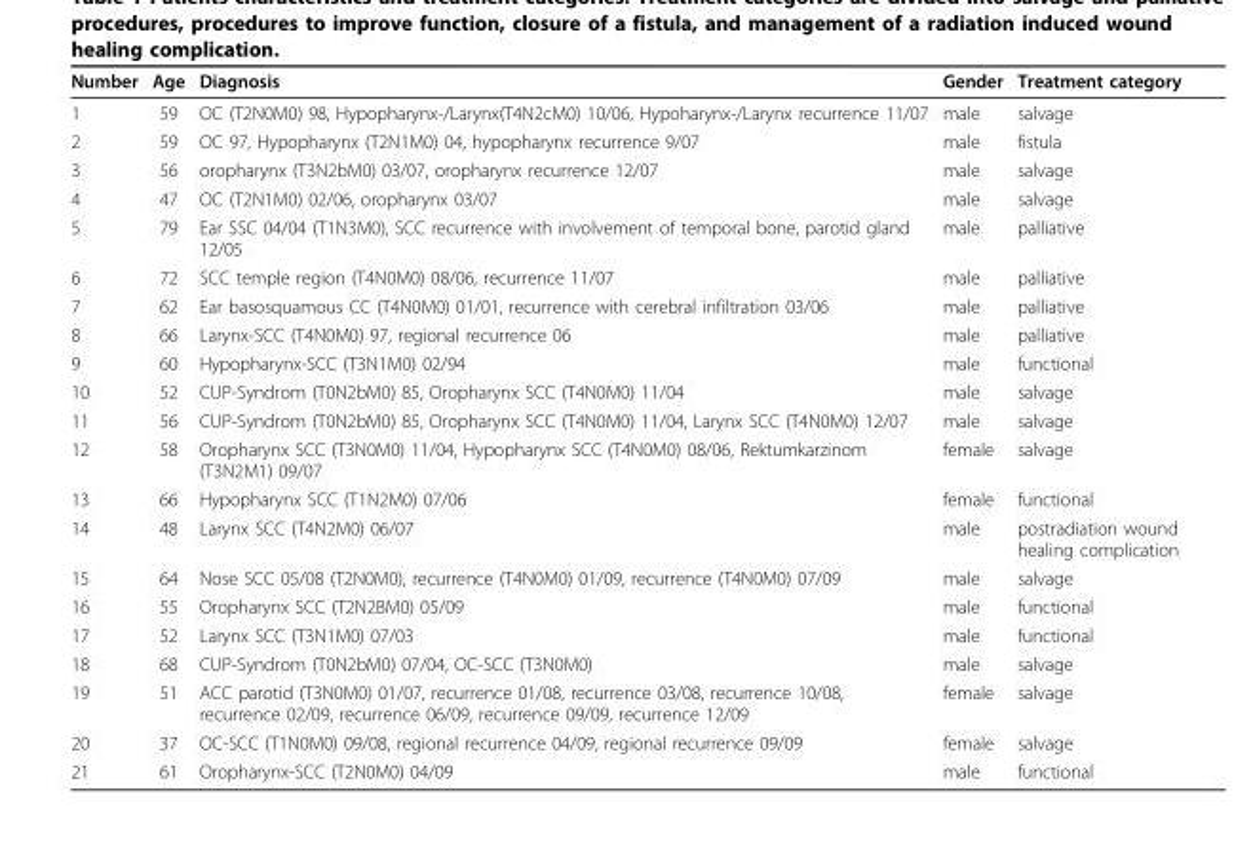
<table><thead><tr><td>Number</td><td>Age</td><td>Diagnosis</td><td>Gender</td><td>Treatment category</td></tr></thead><tbody><tr><td>1</td><td>59</td><td>OC (T2N0M0) 98, Hypopharynx-/Larynx(T4N2cM0) 10/06, Hypoharynx-/Larynx recurrence 11/07</td><td>male</td><td>salvage</td></tr><tr><td>2</td><td>59</td><td>OC 97, Hypopharynx (T2N1M0) 04, hypopharynx recurrence 9/07</td><td>male</td><td>fistula</td></tr><tr><td>3</td><td>56</td><td>oropharynx (T3N2bM0) 03/07, oropharynx recurrence 12/07</td><td>male</td><td>salvage</td></tr><tr><td>4</td><td>47</td><td>OC (T2N1M0) 02/06, oropharynx 03/07</td><td>male</td><td>salvage</td></tr><tr><td>5</td><td>79</td><td>Ear SSC 04/04 (T1N3M0), SCC recurrence with involvement of temporal bone, parotid gland 12/05</td><td>male</td><td>palliative</td></tr><tr><td>6</td><td>72</td><td>SCC temple region (T4N0M0) 08/06, recurrence 11/07</td><td>male</td><td>palliative</td></tr><tr><td>7</td><td>62</td><td>Ear basosquamous CC (T4N0M0) 01/01, recurrence with cerebral infiltration 03/06</td><td>male</td><td>palliative</td></tr><tr><td>8</td><td>66</td><td>Larynx-SCC (T4N0M0) 97, regional recurrence 06</td><td>male</td><td>palliative</td></tr><tr><td>9</td><td>60</td><td>Hypopharynx-SCC (T3N1M0) 02/94</td><td>male</td><td>functional</td></tr><tr><td>10</td><td>52</td><td>CUP-Syndrom (T0N2bM0) 85, Oropharynx SCC (T4N0M0) 11/04</td><td>male</td><td>salvage</td></tr><tr><td>11</td><td>56</td><td>CUP-Syndrom (T0N2bM0) 85, Oropharynx SCC (T4N0M0) 11/04, Larynx SCC (T4N0M0) 12/07</td><td>male</td><td>salvage</td></tr><tr><td>12</td><td>58</td><td>Oropharynx SCC (T3N0M0) 11/04, Hypopharynx SCC (T4N0M0) 08/06, Rektumkarzinom (T3N2M1) 09/07</td><td>female</td><td>salvage</td></tr><tr><td>13</td><td>66</td><td>Hypopharynx SCC (T1N2M0) 07/06</td><td>female</td><td>functional</td></tr><tr><td>14</td><td>48</td><td>Larynx SCC (T4N2M0) 06/07</td><td>male</td><td>postradiation wound healing complication</td></tr><tr><td>15</td><td>64</td><td>Nose SCC 05/08 (T2N0M0), recurrence (T4N0M0) 01/09, recurrence (T4N0M0) 07/09</td><td>male</td><td>salvage</td></tr><tr><td>16</td><td>55</td><td>Oropharynx SCC (T2N2BM0) 05/09</td><td>male</td><td>functional</td></tr><tr><td>17</td><td>52</td><td>Larynx SCC (T3N1M0) 07/03</td><td>male</td><td>functional</td></tr><tr><td>18</td><td>68</td><td>CUP-Syndrom (T0N2bM0) 07/04, OC-SCC (T3N0M0)</td><td>male</td><td>salvage</td></tr><tr><td>19</td><td>51</td><td>ACC parotid (T3N0M0) 01/07, recurrence 01/08, recurrence 03/08, recurrence 10/08, recurrence 02/09, recurrence 06/09, recurrence 09/09, recurrence 12/09</td><td>female</td><td>salvage</td></tr><tr><td>20</td><td>37</td><td>OC-SCC (T1N0M0) 09/08, regional recurrence 04/09, regional recurrence 09/09</td><td>female</td><td>salvage</td></tr><tr><td>21</td><td>61</td><td>Oropharynx-SCC (T2N0M0) 04/09</td><td>male</td><td>functional</td></tr></tbody></table>